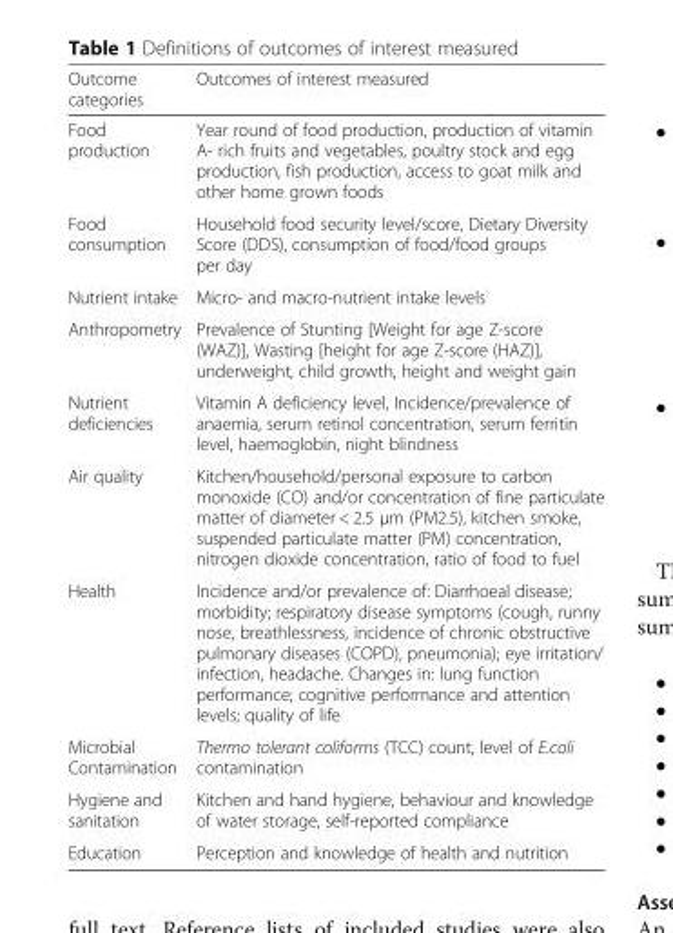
<table><thead><tr><td>Outcome categories</td><td>Outcomes of interest measured</td></tr></thead><tbody><tr><td>Food production</td><td>Year round of food production, production of vitamin A- rich fruits and vegetables, poultry stock and egg production, fish production, access to goat milk and other home grown foods</td></tr><tr><td>Food consumption</td><td>Household food security level/score, Dietary Diversity Score (DDS), consumption of food/food groups per day</td></tr><tr><td>Nutrient intake</td><td>Micro- and macro-nutrient intake levels</td></tr><tr><td>Anthropometry</td><td>Prevalence of Stunting [Weight for age Z-score (WAZ)], Wasting [height for age Z-score (HAZ)], underweight, child growth, height and weight gain</td></tr><tr><td>Nutrient deficiencies</td><td>Vitamin A deficiency level, Incidence/prevalence of anaemia, serum retinol concentration, serum ferritin level, haemoglobin, night blindness</td></tr><tr><td>Air quality</td><td>Kitchen/household/personal exposure to carbon monoxide (CO) and/or concentration of fine particulate matter of diameter &lt; 2.5 μm (PM2.5), kitchen smoke, suspended particulate matter (PM) concentration, nitrogen dioxide concentration, ratio of food to fuel</td></tr><tr><td>Health</td><td>Incidence and/or prevalence of: Diarrhoeal disease; morbidity; respiratory disease symptoms (cough, runny nose, breathlessness, incidence of chronic obstructive pulmonary diseases (COPD), pneumonia); eye irritation/ infection, headache. Changes in: lung function performance; cognitive performance and attention levels; quality of life</td></tr><tr><td>Microbial Contamination</td><td>Thermo tolerant coliforms (TCC) count, level of E.coli contamination</td></tr><tr><td>Hygiene and sanitation</td><td>Kitchen and hand hygiene, behaviour and knowledge of water storage, self-reported compliance</td></tr><tr><td>Education</td><td>Perception and knowledge of health and nutrition</td></tr></tbody></table>